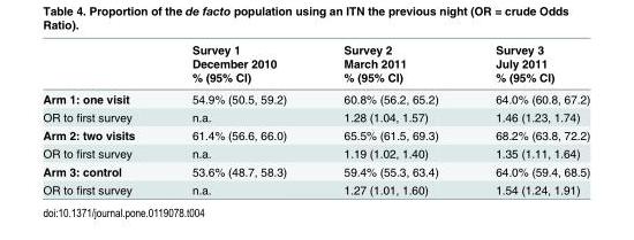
<table><thead><tr><td rowspan="3"></td><td rowspan="3">Survey 1 December 2010 % (95% CI)</td><td rowspan="3">Survey 2 March 2011 % (95% CI)</td><td rowspan="3">Survey 3 July 2011 % (95% CI)</td></tr><tr></tr><tr></tr></thead><tbody><tr><td>Arm 1: one visit</td><td>54.9% (50.5, 59.2)</td><td>60.8% (56.2, 65.2)</td><td>64.0% (60.8, 67.2)</td></tr><tr><td>OR to first survey</td><td>n.a.</td><td>1.28 (1.04, 1.57)</td><td>1.46 (1.23, 1.74)</td></tr><tr><td>Arm 2: two visits</td><td>61.4% (56.6, 66.0)</td><td>65.5% (61.5, 69.3)</td><td>68.2% (63.8, 72.2)</td></tr><tr><td>OR to first survey</td><td>n.a.</td><td>1.19 (1.02, 1.40)</td><td>1.35 (1.11, 1.64)</td></tr><tr><td>Arm 3: control</td><td>53.6% (48.7, 58.3)</td><td>59.4% (55.3, 63.4)</td><td>64.0% (59.4, 68.5)</td></tr><tr><td>OR to first survey</td><td>n.a.</td><td>1.27 (1.01, 1.60)</td><td>1.54 (1.24, 1.91)</td></tr></tbody></table>